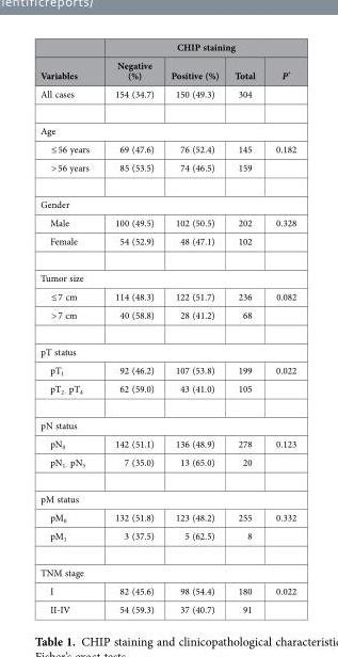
<table><thead><tr><td rowspan="2">Variables</td><td colspan="4">CHIP staining</td></tr><tr><td>Negative (%)</td><td>Positive (%)</td><td>Total</td><td>P*</td></tr></thead><tbody><tr><td>All cases</td><td>154 (34.7)</td><td>150 (49.3)</td><td>304</td><td></td></tr><tr><td colspan="5">Age</td></tr><tr><td>≤ 56 years</td><td>69 (47.6)</td><td>76 (52.4)</td><td>145</td><td>0.182</td></tr><tr><td>&gt; 56 years</td><td>85 (53.5)</td><td>74 (46.5)</td><td>159</td><td></td></tr><tr><td colspan="5">Gender</td></tr><tr><td>Male</td><td>100 (49.5)</td><td>102 (50.5)</td><td>202</td><td>0.328</td></tr><tr><td>Female</td><td>54 (52.9)</td><td>48 (47.1)</td><td>102</td><td></td></tr><tr><td colspan="5">Tumor size</td></tr><tr><td>≤ 7 cm</td><td>114 (48.3)</td><td>122 (51.7)</td><td>236</td><td>0.082</td></tr><tr><td>&gt; 7 cm</td><td>40 (58.8)</td><td>28 (41.2)</td><td>68</td><td></td></tr><tr><td colspan="5">pT status</td></tr><tr><td>pT<sub>1</sub></td><td>92 (46.2)</td><td>107 (53.8)</td><td>199</td><td>0.022</td></tr><tr><td>pT<sub>2-</sub> pT<sub>4</sub></td><td>62 (59.0)</td><td>43 (41.0)</td><td>105</td><td></td></tr><tr><td colspan="5">pN status</td></tr><tr><td>pN<sub>0</sub></td><td>142 (51.1)</td><td>136 (48.9)</td><td>278</td><td>0.123</td></tr><tr><td>pN<sub>1-</sub> pN<sub>3</sub></td><td>7 (35.0)</td><td>13 (65.0)</td><td>20</td><td></td></tr><tr><td colspan="5">pM status</td></tr><tr><td>pM<sub>0</sub></td><td>132 (51.8)</td><td>123 (48.2)</td><td>255</td><td>0.332</td></tr><tr><td>pM<sub>1</sub></td><td>3 (37.5)</td><td>5 (62.5)</td><td>8</td><td></td></tr><tr><td colspan="5">TNM stage</td></tr><tr><td>I</td><td>82 (45.6)</td><td>98 (54.4)</td><td>180</td><td>0.022</td></tr><tr><td>II-IV</td><td>54 (59.3)</td><td>37 (40.7)</td><td>91</td><td></td></tr></tbody></table>